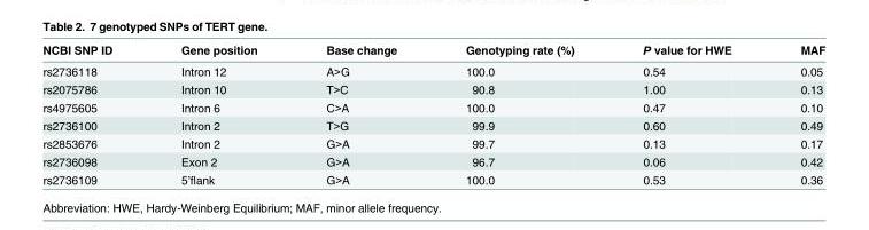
<table><thead><tr><td>NCBI SNP ID</td><td>Gene position</td><td>Base change</td><td>Genotyping rate (%)</td><td>P value for HWE</td><td>MAF</td></tr></thead><tbody><tr><td>rs2736118</td><td>Intron 12</td><td>A&gt;G</td><td>100.0</td><td>0.54</td><td>0.05</td></tr><tr><td>rs2075786</td><td>Intron 10</td><td>T&gt;C</td><td>90.8</td><td>1.00</td><td>0.13</td></tr><tr><td>rs4975605</td><td>Intron 6</td><td>C&gt;A</td><td>100.0</td><td>0.47</td><td>0.10</td></tr><tr><td>rs2736100</td><td>Intron 2</td><td>T&gt;G</td><td>99.9</td><td>0.60</td><td>0.49</td></tr><tr><td>rs2853676</td><td>Intron 2</td><td>G&gt;A</td><td>99.7</td><td>0.13</td><td>0.17</td></tr><tr><td>rs2736098</td><td>Exon 2</td><td>G&gt;A</td><td>96.7</td><td>0.06</td><td>0.42</td></tr><tr><td>rs2736109</td><td>5’flank</td><td>G&gt;A</td><td>100.0</td><td>0.53</td><td>0.36</td></tr></tbody></table>